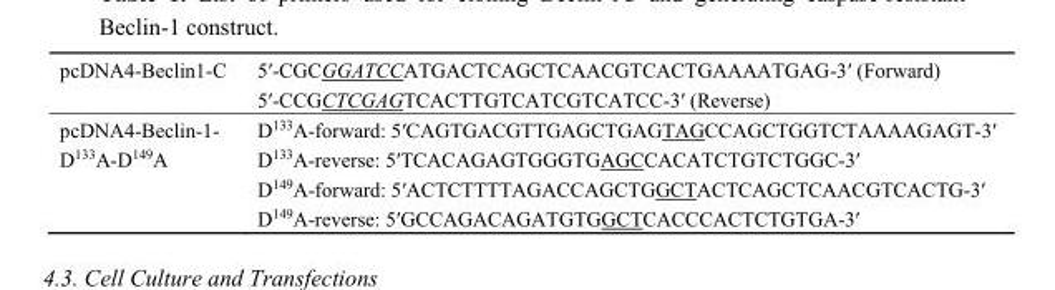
<table><tbody><tr><td>pcDNA4-Beclin1-C</td><td>5ʹ-CGCGGATCCATGACTCAGCTCAACGTCACTGAAAATGAG-3ʹ (Forward) 5ʹ-CCGCTCGAGTCACTTGTCATCGTCATCC-3ʹ (Reverse)</td></tr><tr><td>pcDNA4-Beclin-1- D<sup>133</sup>A-D<sup>149</sup>A</td><td>D<sup>133</sup>A-forward: 5ʹCAGTGACGTTGAGCTGAGTAGCCAGCTGGTCTAAAAGAGT-3ʹ D<sup>133</sup>A-reverse: 5ʹTCACAGAGTGGGTGAGCCACATCTGTCTGGC-3ʹ D<sup>149</sup>A-forward: 5ʹACTCTTTTAGACCAGCTGGCTACTCAGCTCAACGTCACTG-3ʹ D<sup>149</sup>A-reverse: 5ʹGCCAGACAGATGTGGCTCACCCACTCTGTGA-3ʹ</td></tr></tbody></table>